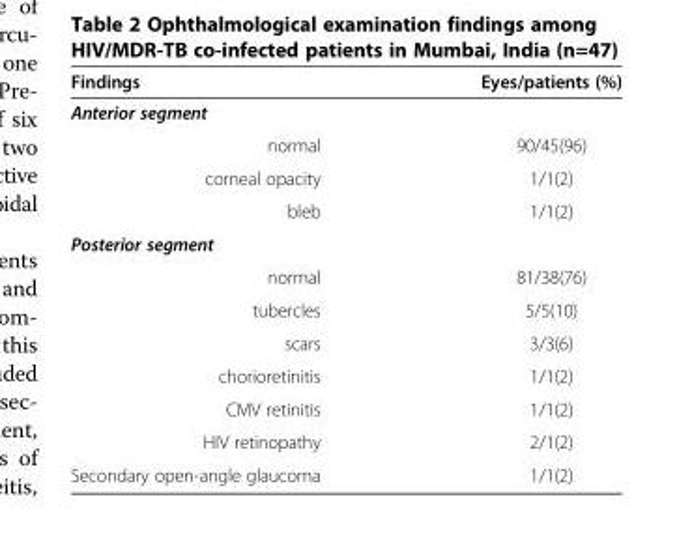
<table><thead><tr><td>Findings</td><td>Eyes/patients (%)</td></tr></thead><tbody><tr><td colspan="2">Anterior segment</td></tr><tr><td>normal</td><td>90/45(96)</td></tr><tr><td>corneal opacity</td><td>1/1(2)</td></tr><tr><td>bleb</td><td>1/1(2)</td></tr><tr><td colspan="2">Posterior segment</td></tr><tr><td>normal</td><td>81/38(76)</td></tr><tr><td>tubercles</td><td>5/5(10)</td></tr><tr><td>scars</td><td>3/3(6)</td></tr><tr><td>chorioretinitis</td><td>1/1(2)</td></tr><tr><td>CMV retinitis</td><td>1/1(2)</td></tr><tr><td>HIV retinopathy</td><td>2/1(2)</td></tr><tr><td>Secondary open-angle glaucoma</td><td>1/1(2)</td></tr></tbody></table>